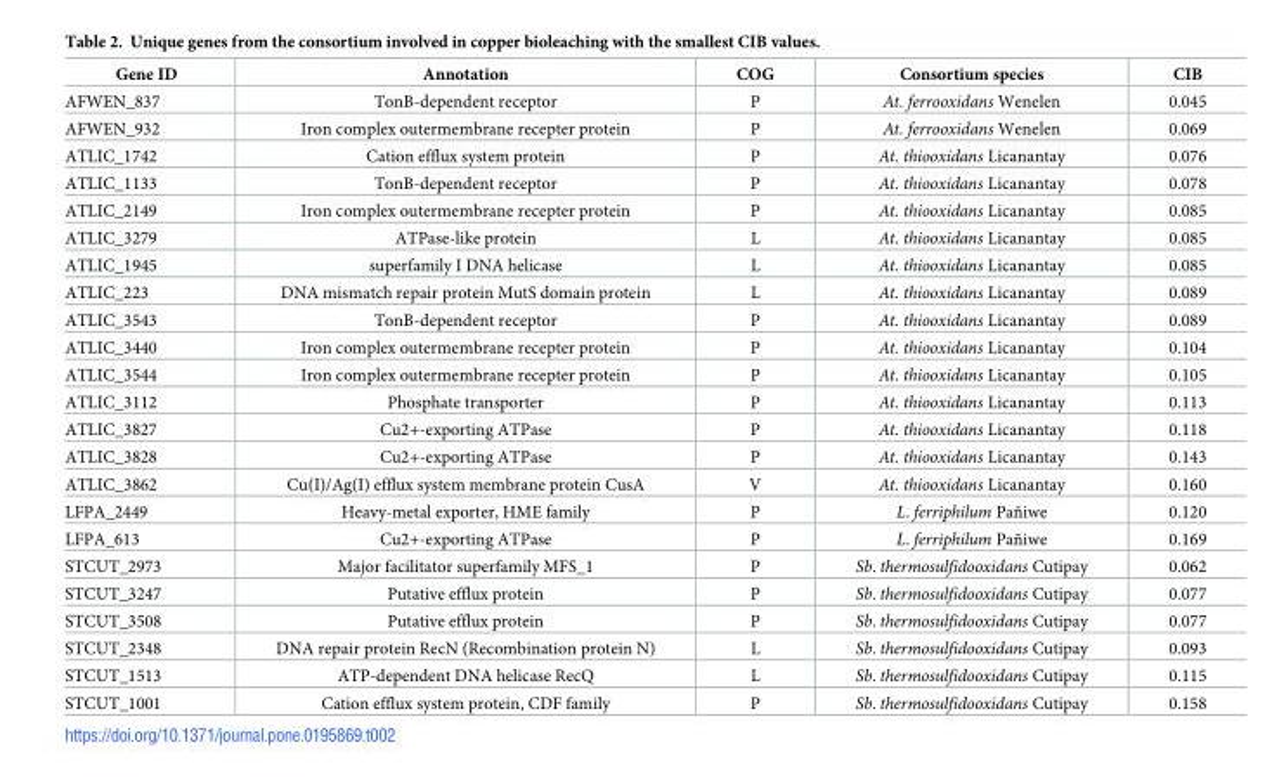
<table><thead><tr><td>Gene ID</td><td>Annotation</td><td>COG</td><td>Consortium species</td><td>CIB</td></tr></thead><tbody><tr><td>AFWEN_837</td><td>TonB-dependent receptor</td><td>P</td><td>At. ferrooxidans Wenelen</td><td>0.045</td></tr><tr><td>AFWEN_932</td><td>Iron complex outermembrane recepter protein</td><td>P</td><td>At. ferrooxidans Wenelen</td><td>0.069</td></tr><tr><td>ATLIC_1742</td><td>Cation efflux system protein</td><td>P</td><td>At. thiooxidans Licanantay</td><td>0.076</td></tr><tr><td>ATLIC_1133</td><td>TonB-dependent receptor</td><td>P</td><td>At. thiooxidans Licanantay</td><td>0.078</td></tr><tr><td>ATLIC_2149</td><td>Iron complex outermembrane recepter protein</td><td>P</td><td>At. thiooxidans Licanantay</td><td>0.085</td></tr><tr><td>ATLIC_3279</td><td>ATPase-like protein</td><td>L</td><td>At. thiooxidans Licanantay</td><td>0.085</td></tr><tr><td>ATLIC_1945</td><td>superfamily I DNA helicase</td><td>L</td><td>At. thiooxidans Licanantay</td><td>0.085</td></tr><tr><td>ATLIC_223</td><td>DNA mismatch repair protein MutS domain protein</td><td>L</td><td>At. thiooxidans Licanantay</td><td>0.089</td></tr><tr><td>ATLIC_3543</td><td>TonB-dependent receptor</td><td>P</td><td>At. thiooxidans Licanantay</td><td>0.089</td></tr><tr><td>ATLIC_3440</td><td>Iron complex outermembrane recepter protein</td><td>P</td><td>At. thiooxidans Licanantay</td><td>0.104</td></tr><tr><td>ATLIC_3544</td><td>Iron complex outermembrane recepter protein</td><td>P</td><td>At. thiooxidans Licanantay</td><td>0.105</td></tr><tr><td>ATLIC_3112</td><td>Phosphate transporter</td><td>P</td><td>At. thiooxidans Licanantay</td><td>0.113</td></tr><tr><td>ATLIC_3827</td><td>Cu2+-exporting ATPase</td><td>P</td><td>At. thiooxidans Licanantay</td><td>0.118</td></tr><tr><td>ATLIC_3828</td><td>Cu2+-exporting ATPase</td><td>P</td><td>At. thiooxidans Licanantay</td><td>0.143</td></tr><tr><td>ATLIC_3862</td><td>Cu(I)/Ag(I) efflux system membrane protein CusA</td><td>V</td><td>At. thiooxidans Licanantay</td><td>0.160</td></tr><tr><td>LFPA_2449</td><td>Heavy-metal exporter, HME family</td><td>P</td><td>L. ferriphilum Pañiwe</td><td>0.120</td></tr><tr><td>LFPA_613</td><td>Cu2+-exporting ATPase</td><td>P</td><td>L. ferriphilum Pañiwe</td><td>0.169</td></tr><tr><td>STCUT_2973</td><td>Major facilitator superfamily MFS_1</td><td>P</td><td>Sb. thermosulfidooxidans Cutipay</td><td>0.062</td></tr><tr><td>STCUT_3247</td><td>Putative efflux protein</td><td>P</td><td>Sb. thermosulfidooxidans Cutipay</td><td>0.077</td></tr><tr><td>STCUT_3508</td><td>Putative efflux protein</td><td>P</td><td>Sb. thermosulfidooxidans Cutipay</td><td>0.077</td></tr><tr><td>STCUT_2348</td><td>DNA repair protein RecN (Recombination protein N)</td><td>L</td><td>Sb. thermosulfidooxidans Cutipay</td><td>0.093</td></tr><tr><td>STCUT_1513</td><td>ATP-dependent DNA helicase RecQ</td><td>L</td><td>Sb. thermosulfidooxidans Cutipay</td><td>0.115</td></tr><tr><td>STCUT_1001</td><td>Cation efflux system protein, CDF family</td><td>P</td><td>Sb. thermosulfidooxidans Cutipay</td><td>0.158</td></tr></tbody></table>